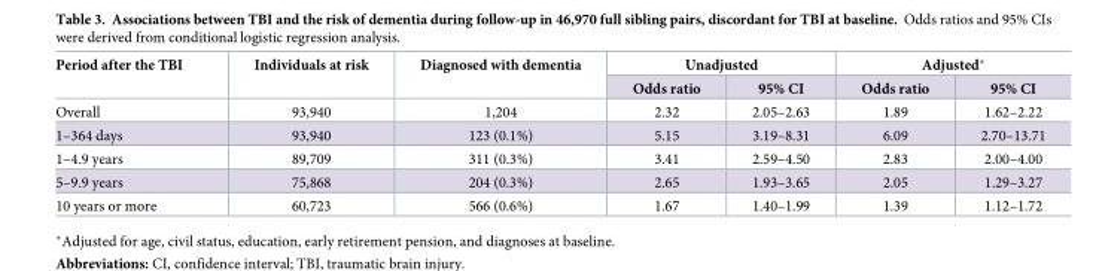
<table><thead><tr><td rowspan="2">Period after the TBI</td><td rowspan="2">Individuals at risk</td><td rowspan="2">Diagnosed with dementia</td><td colspan="2">Unadjusted</td><td colspan="2">Adjusted*</td></tr><tr><td>Odds ratio</td><td>95% CI</td><td>Odds ratio</td><td>95% CI</td></tr></thead><tbody><tr><td>Overall</td><td>93,940</td><td>1,204</td><td>2.32</td><td>2.05–2.63</td><td>1.89</td><td>1.62–2.22</td></tr><tr><td>1–364 days</td><td>93,940</td><td>123 (0.1%)</td><td>5.15</td><td>3.19–8.31</td><td>6.09</td><td>2.70–13.71</td></tr><tr><td>1–4.9 years</td><td>89,709</td><td>311 (0.3%)</td><td>3.41</td><td>2.59–4.50</td><td>2.83</td><td>2.00–4.00</td></tr><tr><td>5–9.9 years</td><td>75,868</td><td>204 (0.3%)</td><td>2.65</td><td>1.93–3.65</td><td>2.05</td><td>1.29–3.27</td></tr><tr><td>10 years or more</td><td>60,723</td><td>566 (0.6%)</td><td>1.67</td><td>1.40–1.99</td><td>1.39</td><td>1.12–1.72</td></tr></tbody></table>